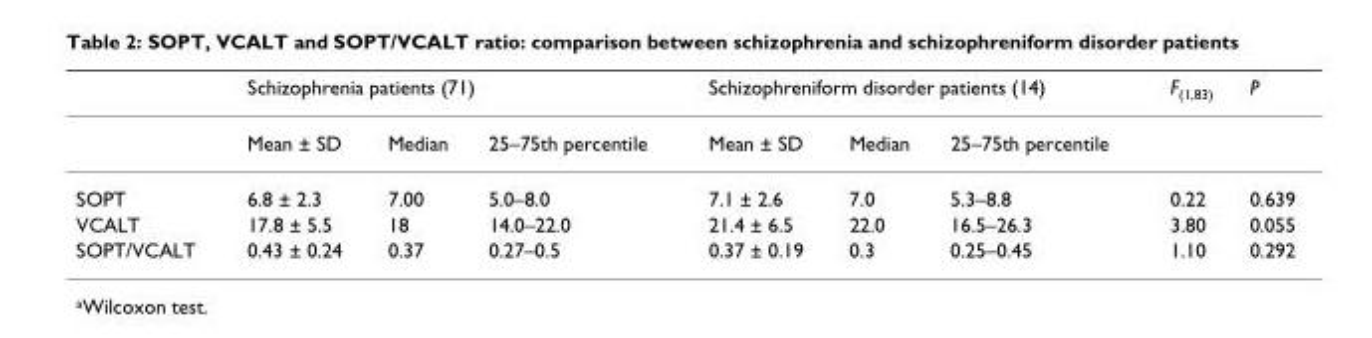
<table><thead><tr><td rowspan="2"></td><td colspan="3">Schizophrenia patients (71)</td><td colspan="3">Schizophreniform disorder patients (14)</td><td rowspan="2">F<sub>(1,83)</sub></td><td rowspan="2">P</td></tr><tr><td>Mean ± SD</td><td>Median</td><td>25–75th percentile</td><td>Mean ± SD</td><td>Median</td><td>25–75th percentile</td></tr></thead><tbody><tr><td>SOPT</td><td>6.8 ± 2.3</td><td>7.00</td><td>5.0–8.0</td><td>7.1 ± 2.6</td><td>7.0</td><td>5.3–8.8</td><td>0.22</td><td>0.639</td></tr><tr><td>VCALT</td><td>17.8 ± 5.5</td><td>18</td><td>14.0–22.0</td><td>21.4 ± 6.5</td><td>22.0</td><td>16.5–26.3</td><td>3.80</td><td>0.055</td></tr><tr><td>SOPT/VCALT</td><td>0.43 ± 0.24</td><td>0.37</td><td>0.27–0.5</td><td>0.37 ± 0.19</td><td>0.3</td><td>0.25–0.45</td><td>1.10</td><td>0.292</td></tr></tbody></table>